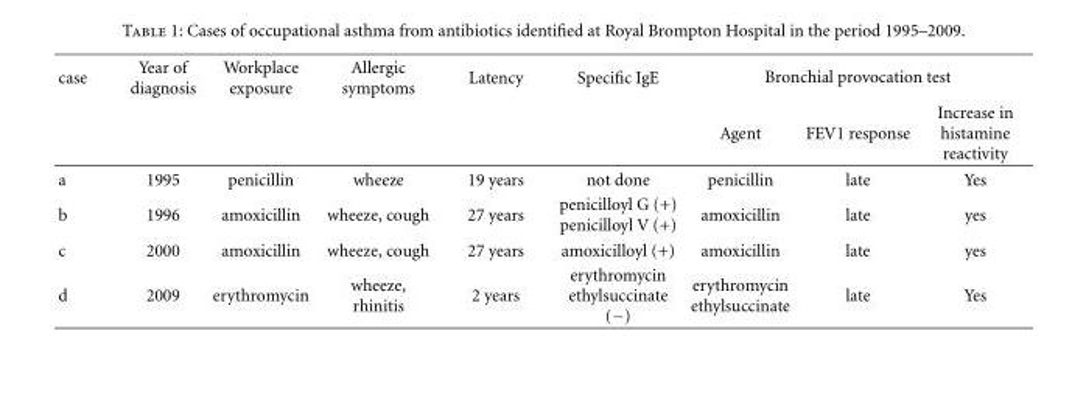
<table><thead><tr><td rowspan="2">case</td><td rowspan="2">Year of diagnosis</td><td rowspan="2">Workplace exposure</td><td rowspan="2">Allergic symptoms</td><td rowspan="2">Latency</td><td rowspan="2">Specific IgE</td><td colspan="3">Bronchial provocation test</td></tr><tr><td>Agent</td><td>FEV1 response</td><td>Increase in histamine reactivity</td></tr></thead><tbody><tr><td>a</td><td>1995</td><td>penicillin</td><td>wheeze</td><td>19 years</td><td>not done</td><td>penicillin</td><td>late</td><td>Yes</td></tr><tr><td>b</td><td>1996</td><td>amoxicillin</td><td>wheeze, cough</td><td>27 years</td><td>penicilloyl G (+) penicilloyl V (+)</td><td>amoxicillin</td><td>late</td><td>yes</td></tr><tr><td>c</td><td>2000</td><td>amoxicillin</td><td>wheeze, cough</td><td>27 years</td><td>amoxicilloyl (+)</td><td>amoxicillin</td><td>late</td><td>yes</td></tr><tr><td>d</td><td>2009</td><td>erythromycin</td><td>wheeze, rhinitis</td><td>2 years</td><td>erythromycin ethylsuccinate (−)</td><td>erythromycin ethylsuccinate</td><td>late</td><td>Yes</td></tr></tbody></table>